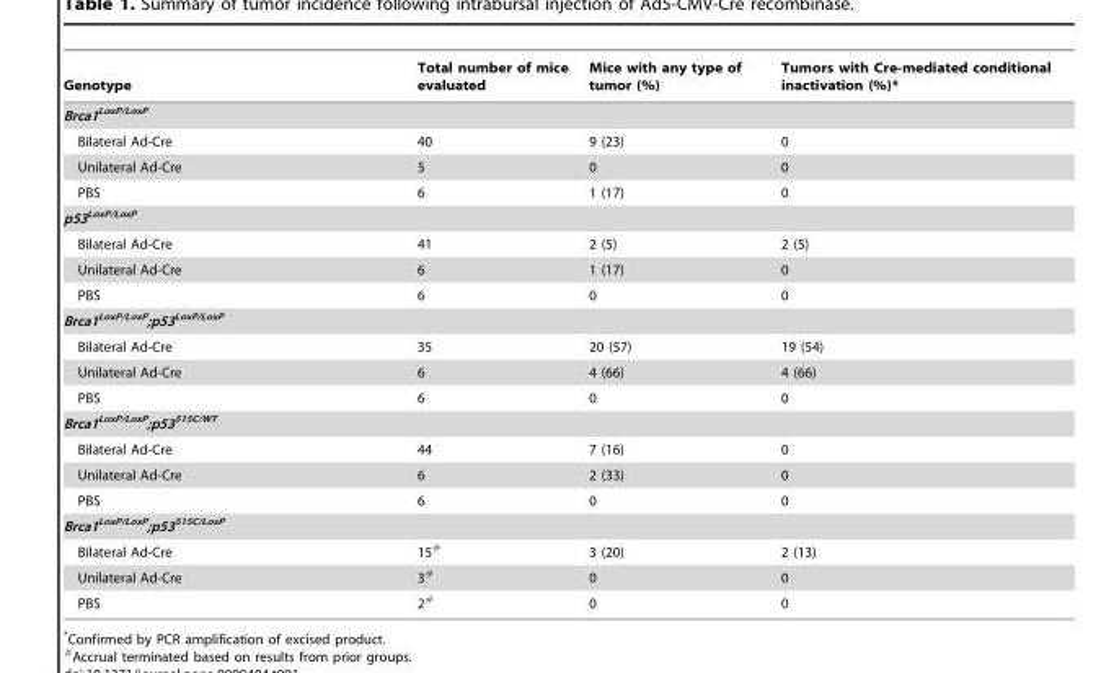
<table><thead><tr><td>Genotype</td><td>Total number of mice evaluated</td><td>Mice with any type of tumor (%)</td><td>Tumors with Cre-mediated conditional inactivation (%)*</td></tr></thead><tbody><tr><td colspan="4">Brca1<sup>LoxP/LoxP</sup></td></tr><tr><td>Bilateral Ad-Cre</td><td>40</td><td>9 (23)</td><td>0</td></tr><tr><td>Unilateral Ad-Cre</td><td>5</td><td>0</td><td>0</td></tr><tr><td>PBS</td><td>6</td><td>1 (17)</td><td>0</td></tr><tr><td colspan="4">p53<sup>LoxP/LoxP</sup></td></tr><tr><td>Bilateral Ad-Cre</td><td>41</td><td>2 (5)</td><td>2 (5)</td></tr><tr><td>Unilateral Ad-Cre</td><td>6</td><td>1 (17)</td><td>0</td></tr><tr><td>PBS</td><td>6</td><td>0</td><td>0</td></tr><tr><td colspan="4">Brca1<sup>LoxP/LoxP</sup>;p53<sup>LoxP/LoxP</sup></td></tr><tr><td>Bilateral Ad-Cre</td><td>35</td><td>20 (57)</td><td>19 (54)</td></tr><tr><td>Unilateral Ad-Cre</td><td>6</td><td>4 (66)</td><td>4 (66)</td></tr><tr><td>PBS</td><td>6</td><td>0</td><td>0</td></tr><tr><td colspan="4">Brca1<sup>LoxP/LoxP</sup>;p53<sup>515C/WT</sup></td></tr><tr><td>Bilateral Ad-Cre</td><td>44</td><td>7 (16)</td><td>0</td></tr><tr><td>Unilateral Ad-Cre</td><td>6</td><td>2 (33)</td><td>0</td></tr><tr><td>PBS</td><td>6</td><td>0</td><td>0</td></tr><tr><td colspan="4">Brca1<sup>LoxP/LoxP</sup>;p53<sup>515C/LoxP</sup></td></tr><tr><td>Bilateral Ad-Cre</td><td>15#</td><td>3 (20)</td><td>2 (13)</td></tr><tr><td>Unilateral Ad-Cre</td><td>3#</td><td>0</td><td>0</td></tr><tr><td>PBS</td><td>2#</td><td>0</td><td>0</td></tr></tbody></table>